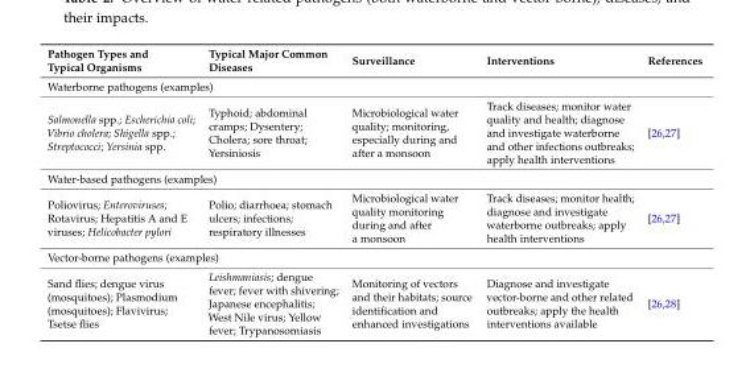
<table><thead><tr><td>Pathogen Types and Typical Organisms</td><td>Typical Major Common Diseases</td><td>Surveillance</td><td>Interventions</td><td>References</td></tr></thead><tbody><tr><td colspan="5">Waterborne pathogens (examples)</td></tr><tr><td>Salmonella spp.; Escherichia coli; Vibrio cholera; Shigella spp.; Streptococci; Yersinia spp.</td><td>Typhoid; abdominal cramps; Dysentery; Cholera; sore throat; Yersiniosis</td><td>Microbiological water quality; monitoring, especially during and after a monsoon</td><td>Track diseases; monitor water quality and health; diagnose and investigate waterborne and other infections outbreaks; apply health interventions</td><td>[26,27]</td></tr><tr><td colspan="5">Water-based pathogens (examples)</td></tr><tr><td>Poliovirus; Enteroviruses; Rotavirus; Hepatitis A and E viruses; Helicobacter pylori</td><td>Polio; diarrhoea; stomach ulcers; infections; respiratory illnesses</td><td>Microbiological water quality monitoring during and after a monsoon</td><td>Track diseases; monitor health; diagnose and investigate waterborne outbreaks; apply health interventions</td><td>[26,27]</td></tr><tr><td colspan="5">Vector-borne pathogens (examples)</td></tr><tr><td>Sand flies; dengue virus (mosquitoes); Plasmodium (mosquitoes); Flavivirus; Tsetse flies</td><td>Leishmaniasis; dengue fever; fever with shivering; Japanese encephalitis; West Nile virus; Yellow fever; Trypanosomiasis</td><td>Monitoring of vectors and their habitats; source identification and enhanced investigations</td><td>Diagnose and investigate vector-borne and other related outbreaks; apply the health interventions available</td><td>[26,28]</td></tr></tbody></table>